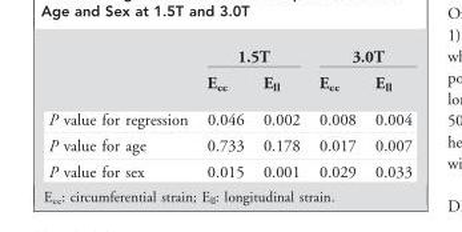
<table><thead><tr><td rowspan="2"></td><td colspan="2">1.5T</td><td colspan="2">3.0T</td></tr><tr><td>E<sub>cc</sub></td><td>E<sub>ll</sub></td><td>E<sub>cc</sub></td><td>E<sub>ll</sub></td></tr></thead><tbody><tr><td>P value for regression</td><td>0.046</td><td>0.002</td><td>0.008</td><td>0.004</td></tr><tr><td>P value for age</td><td>0.733</td><td>0.178</td><td>0.017</td><td>0.007</td></tr><tr><td>P value for sex</td><td>0.015</td><td>0.001</td><td>0.029</td><td>0.033</td></tr></tbody></table>